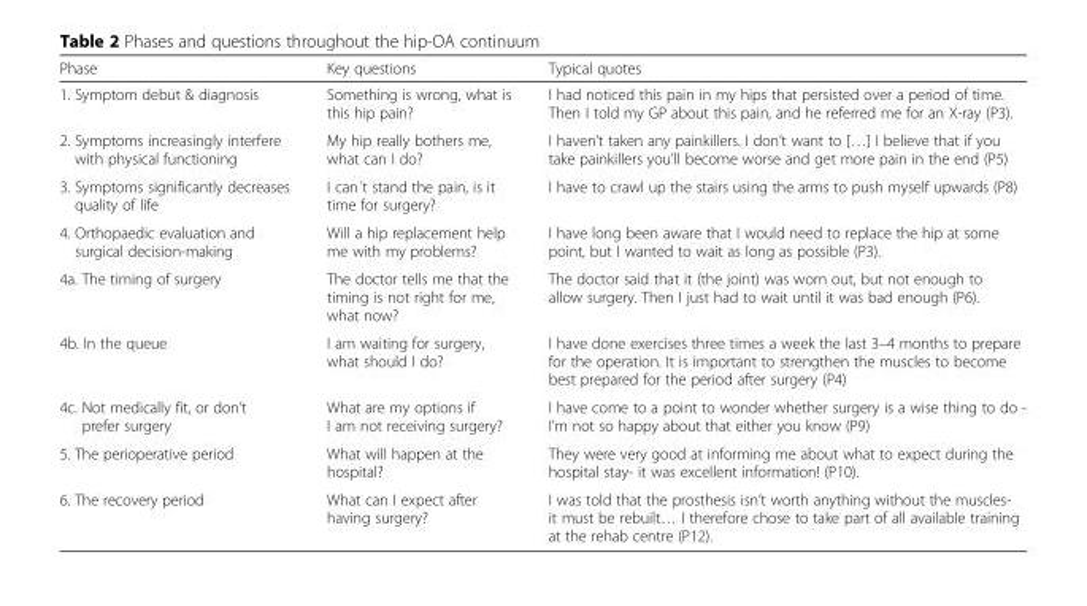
<table><thead><tr><td>Phase</td><td>Key questions</td><td>Typical quotes</td></tr></thead><tbody><tr><td>1. Symptom debut &amp; diagnosis</td><td>Something is wrong, what is this hip pain?</td><td>I had noticed this pain in my hips that persisted over a period of time. Then I told my GP about this pain, and he referred me for an X-ray (P3).</td></tr><tr><td>2. Symptoms increasingly interfere with physical functioning</td><td>My hip really bothers me, what can I do?</td><td>I haven’t taken any painkillers. I don’t want to […] I believe that if you take painkillers you’ll become worse and get more pain in the end (P5)</td></tr><tr><td>3. Symptoms significantly decreases quality of life</td><td>I can´t stand the pain, is it time for surgery?</td><td>I have to crawl up the stairs using the arms to push myself upwards (P8)</td></tr><tr><td>4. Orthopaedic evaluation and surgical decision-making</td><td>Will a hip replacement help me with my problems?</td><td>I have long been aware that I would need to replace the hip at some point, but I wanted to wait as long as possible (P3).</td></tr><tr><td>4a. The timing of surgery</td><td>The doctor tells me that the timing is not right for me, what now?</td><td>The doctor said that it (the joint) was worn out, but not enough to allow surgery. Then I just had to wait until it was bad enough (P6).</td></tr><tr><td>4b. In the queue</td><td>I am waiting for surgery, what should I do?</td><td>I have done exercises three times a week the last 3–4 months to prepare for the operation. It is important to strengthen the muscles to become best prepared for the period after surgery (P4)</td></tr><tr><td>4c. Not medically fit, or don’t prefer surgery</td><td>What are my options if I am not receiving surgery?</td><td>I have come to a point to wonder whether surgery is a wise thing to do - I’m not so happy about that either you know (P9)</td></tr><tr><td>5. The perioperative period</td><td>What will happen at the hospital?</td><td>They were very good at informing me about what to expect during the hospital stay- it was excellent information! (P10).</td></tr><tr><td>6. The recovery period</td><td>What can I expect after having surgery?</td><td>I was told that the prosthesis isn’t worth anything without the muscles- it must be rebuilt… I therefore chose to take part of all available training at the rehab centre (P12).</td></tr></tbody></table>